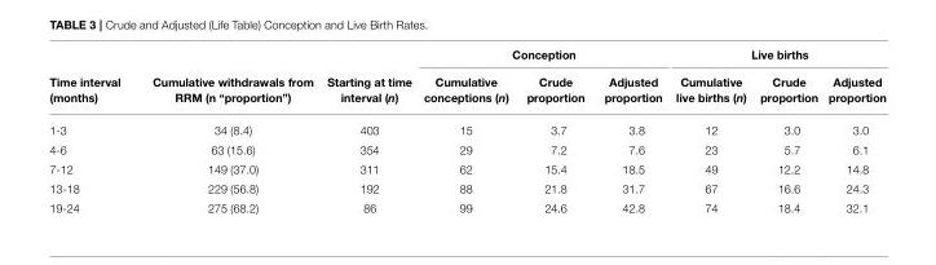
<table><thead><tr><td rowspan="2">Time interval (months)</td><td rowspan="2">Cumulative withdrawals from RRM (n “proportion”)</td><td rowspan="2">Starting at time interval (n)</td><td colspan="3">Conception</td><td colspan="3">Live births</td></tr><tr><td>Cumulative conceptions (n)</td><td>Crude proportion</td><td>Adjusted proportion</td><td>Cumulative live births (n)</td><td>Crude proportion</td><td>Adjusted proportion</td></tr></thead><tbody><tr><td>1-3</td><td>34 (8.4)</td><td>403</td><td>15</td><td>3.7</td><td>3.8</td><td>12</td><td>3.0</td><td>3.0</td></tr><tr><td>4-6</td><td>63 (15.6)</td><td>354</td><td>29</td><td>7.2</td><td>7.6</td><td>23</td><td>5.7</td><td>6.1</td></tr><tr><td>7-12</td><td>149 (37.0)</td><td>311</td><td>62</td><td>15.4</td><td>18.5</td><td>49</td><td>12.2</td><td>14.8</td></tr><tr><td>13-18</td><td>229 (56.8)</td><td>192</td><td>88</td><td>21.8</td><td>31.7</td><td>67</td><td>16.6</td><td>24.3</td></tr><tr><td>19-24</td><td>275 (68.2)</td><td>86</td><td>99</td><td>24.6</td><td>42.8</td><td>74</td><td>18.4</td><td>32.1</td></tr></tbody></table>